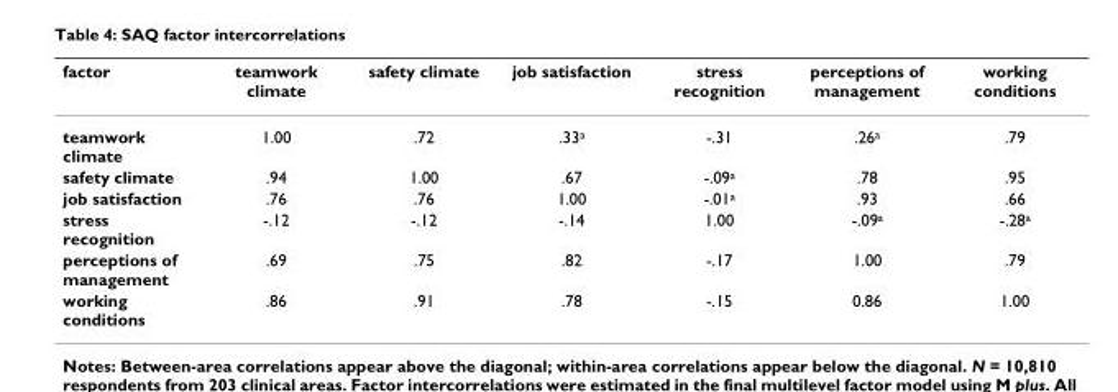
<table><thead><tr><td>factor</td><td>teamwork climate</td><td>safety climate</td><td>job satisfaction</td><td>stress recognition</td><td>perceptions of management</td><td>working conditions</td></tr></thead><tbody><tr><td>teamwork climate</td><td>1.00</td><td>.72</td><td>.33a</td><td>-.31</td><td>.26a</td><td>.79</td></tr><tr><td>safety climate</td><td>.94</td><td>1.00</td><td>.67</td><td>-.09a</td><td>.78</td><td>.95</td></tr><tr><td>job satisfaction</td><td>.76</td><td>.76</td><td>1.00</td><td>-.01a</td><td>.93</td><td>.66</td></tr><tr><td>stress recognition</td><td>-.12</td><td>-.12</td><td>-.14</td><td>1.00</td><td>-.09a</td><td>-.28a</td></tr><tr><td>perceptions of management</td><td>.69</td><td>.75</td><td>.82</td><td>-.17</td><td>1.00</td><td>.79</td></tr><tr><td>working conditions</td><td>.86</td><td>.91</td><td>.78</td><td>-.15</td><td>0.86</td><td>1.00</td></tr></tbody></table>